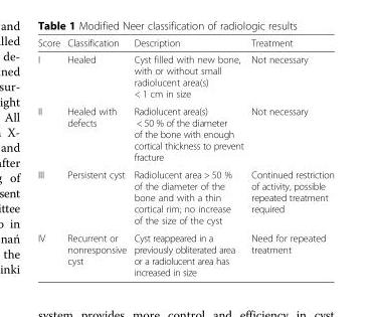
<table><thead><tr><td>Score</td><td>Classification</td><td>Description</td><td>Treatment</td></tr></thead><tbody><tr><td>I</td><td>Healed</td><td>Cyst filled with new bone, with or without small radiolucent area(s) &lt; 1 cm in size</td><td>Not necessary</td></tr><tr><td>II</td><td>Healed with defects</td><td>Radiolucent area(s) &lt; 50 % of the diameter of the bone with enough cortical thickness to prevent fracture</td><td>Not necessary</td></tr><tr><td>III</td><td>Persistent cyst</td><td>Radiolucent area &gt; 50 % of the diameter of the bone and with a thin cortical rim; no increase of the size of the cyst</td><td>Continued restriction of activity, possible repeated treatment required</td></tr><tr><td>IV</td><td>Recurrent or nonresponsive cyst</td><td>Cyst reappeared in a previously obliterated area or a radiolucent area has increased in size</td><td>Need for repeated treatment</td></tr></tbody></table>